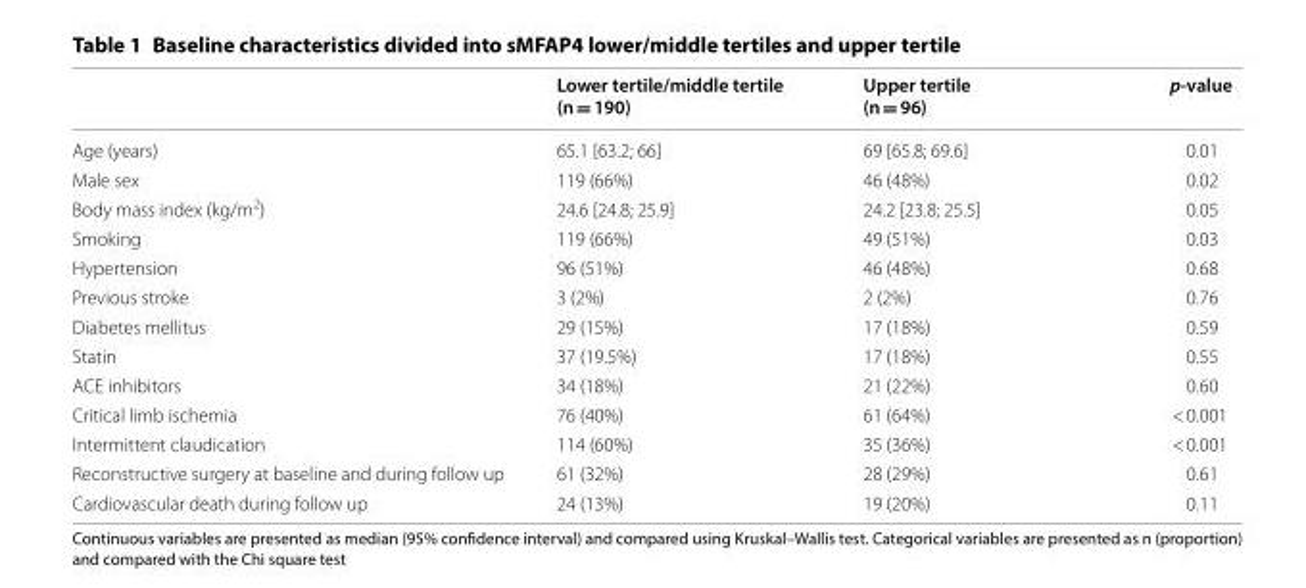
<table><thead><tr><td></td><td>Lower tertile/middle tertile (n = 190)</td><td>Upper tertile (n = 96)</td><td>p-value</td></tr></thead><tbody><tr><td>Age (years)</td><td>65.1 [63.2; 66]</td><td>69 [65.8; 69.6]</td><td>0.01</td></tr><tr><td>Male sex</td><td>119 (66%)</td><td>46 (48%)</td><td>0.02</td></tr><tr><td>Body mass index (kg/m<sup>2</sup>)</td><td>24.6 [24.8; 25.9]</td><td>24.2 [23.8; 25.5]</td><td>0.05</td></tr><tr><td>Smoking</td><td>119 (66%)</td><td>49 (51%)</td><td>0.03</td></tr><tr><td>Hypertension</td><td>96 (51%)</td><td>46 (48%)</td><td>0.68</td></tr><tr><td>Previous stroke</td><td>3 (2%)</td><td>2 (2%)</td><td>0.76</td></tr><tr><td>Diabetes mellitus</td><td>29 (15%)</td><td>17 (18%)</td><td>0.59</td></tr><tr><td>Statin</td><td>37 (19.5%)</td><td>17 (18%)</td><td>0.55</td></tr><tr><td>ACE inhibitors</td><td>34 (18%)</td><td>21 (22%)</td><td>0.60</td></tr><tr><td>Critical limb ischemia</td><td>76 (40%)</td><td>61 (64%)</td><td>&lt; 0.001</td></tr><tr><td>Intermittent claudication</td><td>114 (60%)</td><td>35 (36%)</td><td>&lt; 0.001</td></tr><tr><td>Reconstructive surgery at baseline and during follow up</td><td>61 (32%)</td><td>28 (29%)</td><td>0.61</td></tr><tr><td>Cardiovascular death during follow up</td><td>24 (13%)</td><td>19 (20%)</td><td>0.11</td></tr></tbody></table>